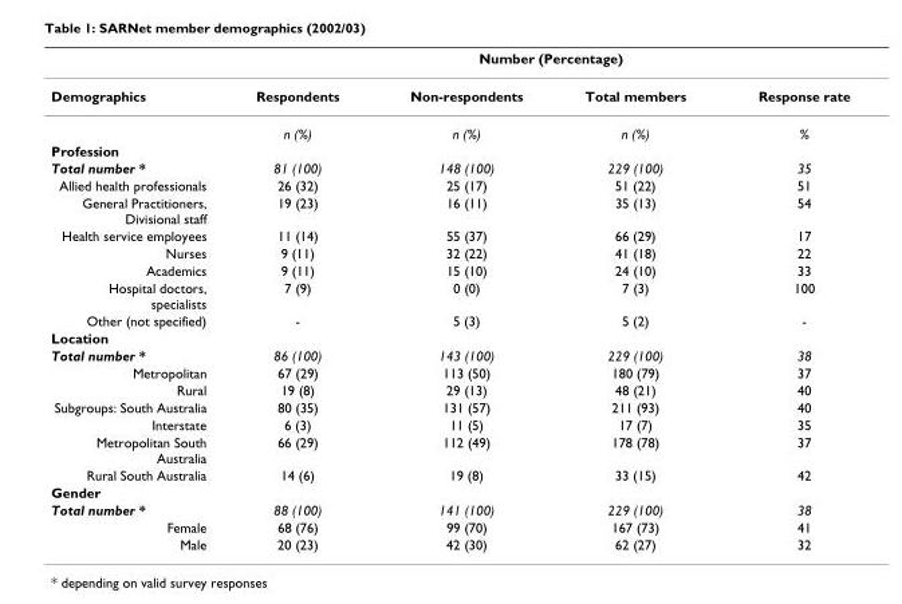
<table><thead><tr><td rowspan="2">Demographics</td><td colspan="4">Number (Percentage)</td></tr><tr><td>Respondents</td><td>Non-respondents</td><td>Total members</td><td>Response rate</td></tr></thead><tbody><tr><td></td><td>n (%)</td><td>n (%)</td><td>n (%)</td><td>%</td></tr><tr><td colspan="5">Profession</td></tr><tr><td>Total number *</td><td>81 (100)</td><td>148 (100)</td><td>229 (100)</td><td>35</td></tr><tr><td>Allied health professionals</td><td>26 (32)</td><td>25 (17)</td><td>51 (22)</td><td>51</td></tr><tr><td>General Practitioners, Divisional staff</td><td>19 (23)</td><td>16 (11)</td><td>35 (13)</td><td>54</td></tr><tr><td>Health service employees</td><td>11 (14)</td><td>55 (37)</td><td>66 (29)</td><td>17</td></tr><tr><td>Nurses</td><td>9 (11)</td><td>32 (22)</td><td>41 (18)</td><td>22</td></tr><tr><td>Academics</td><td>9 (11)</td><td>15 (10)</td><td>24 (10)</td><td>33</td></tr><tr><td>Hospital doctors, specialists</td><td>7 (9)</td><td>0 (0)</td><td>7 (3)</td><td>100</td></tr><tr><td>Other (not specified)</td><td>-</td><td>5 (3)</td><td>5 (2)</td><td>-</td></tr><tr><td colspan="5">Location</td></tr><tr><td>Total number *</td><td>86 (100)</td><td>143 (100)</td><td>229 (100)</td><td>38</td></tr><tr><td>Metropolitan</td><td>67 (29)</td><td>113 (50)</td><td>180 (79)</td><td>37</td></tr><tr><td>Rural</td><td>19 (8)</td><td>29 (13)</td><td>48 (21)</td><td>40</td></tr><tr><td>Subgroups: South Australia</td><td>80 (35)</td><td>131 (57)</td><td>211 (93)</td><td>40</td></tr><tr><td>Interstate</td><td>6 (3)</td><td>11 (5)</td><td>17 (7)</td><td>35</td></tr><tr><td>Metropolitan South Australia</td><td>66 (29)</td><td>112 (49)</td><td>178 (78)</td><td>37</td></tr><tr><td>Rural South Australia</td><td>14 (6)</td><td>19 (8)</td><td>33 (15)</td><td>42</td></tr><tr><td colspan="5">Gender</td></tr><tr><td>Total number *</td><td>88 (100)</td><td>141 (100)</td><td>229 (100)</td><td>38</td></tr><tr><td>Female</td><td>68 (76)</td><td>99 (70)</td><td>167 (73)</td><td>41</td></tr><tr><td>Male</td><td>20 (23)</td><td>42 (30)</td><td>62 (27)</td><td>32</td></tr></tbody></table>